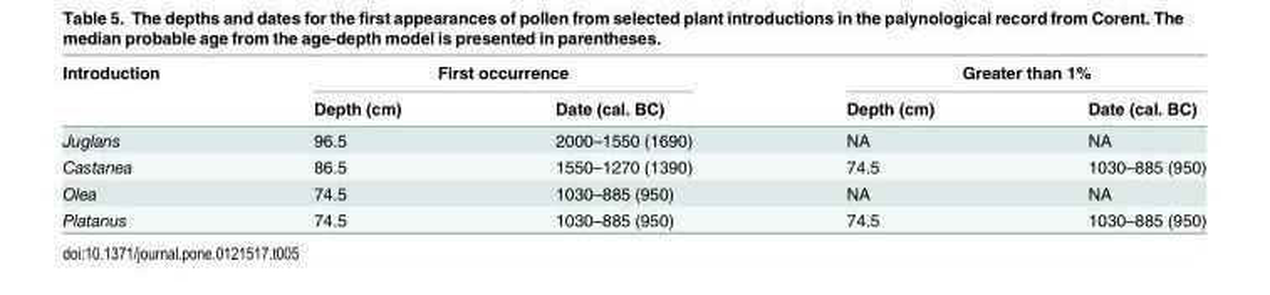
<table><thead><tr><td rowspan="2">Introduction</td><td colspan="2">First occurrence</td><td colspan="2">Greater than 1%</td></tr><tr><td>Depth (cm)</td><td>Date (cal. BC)</td><td>Depth (cm)</td><td>Date (cal. BC)</td></tr></thead><tbody><tr><td>Juglans</td><td>96.5</td><td>2000–1550 (1690)</td><td>NA</td><td>NA</td></tr><tr><td>Castanea</td><td>86.5</td><td>1550–1270 (1390)</td><td>74.5</td><td>1030–885 (950)</td></tr><tr><td>Olea</td><td>74.5</td><td>1030–885 (950)</td><td>NA</td><td>NA</td></tr><tr><td>Platanus</td><td>74.5</td><td>1030–885 (950)</td><td>74.5</td><td>1030–885 (950)</td></tr></tbody></table>